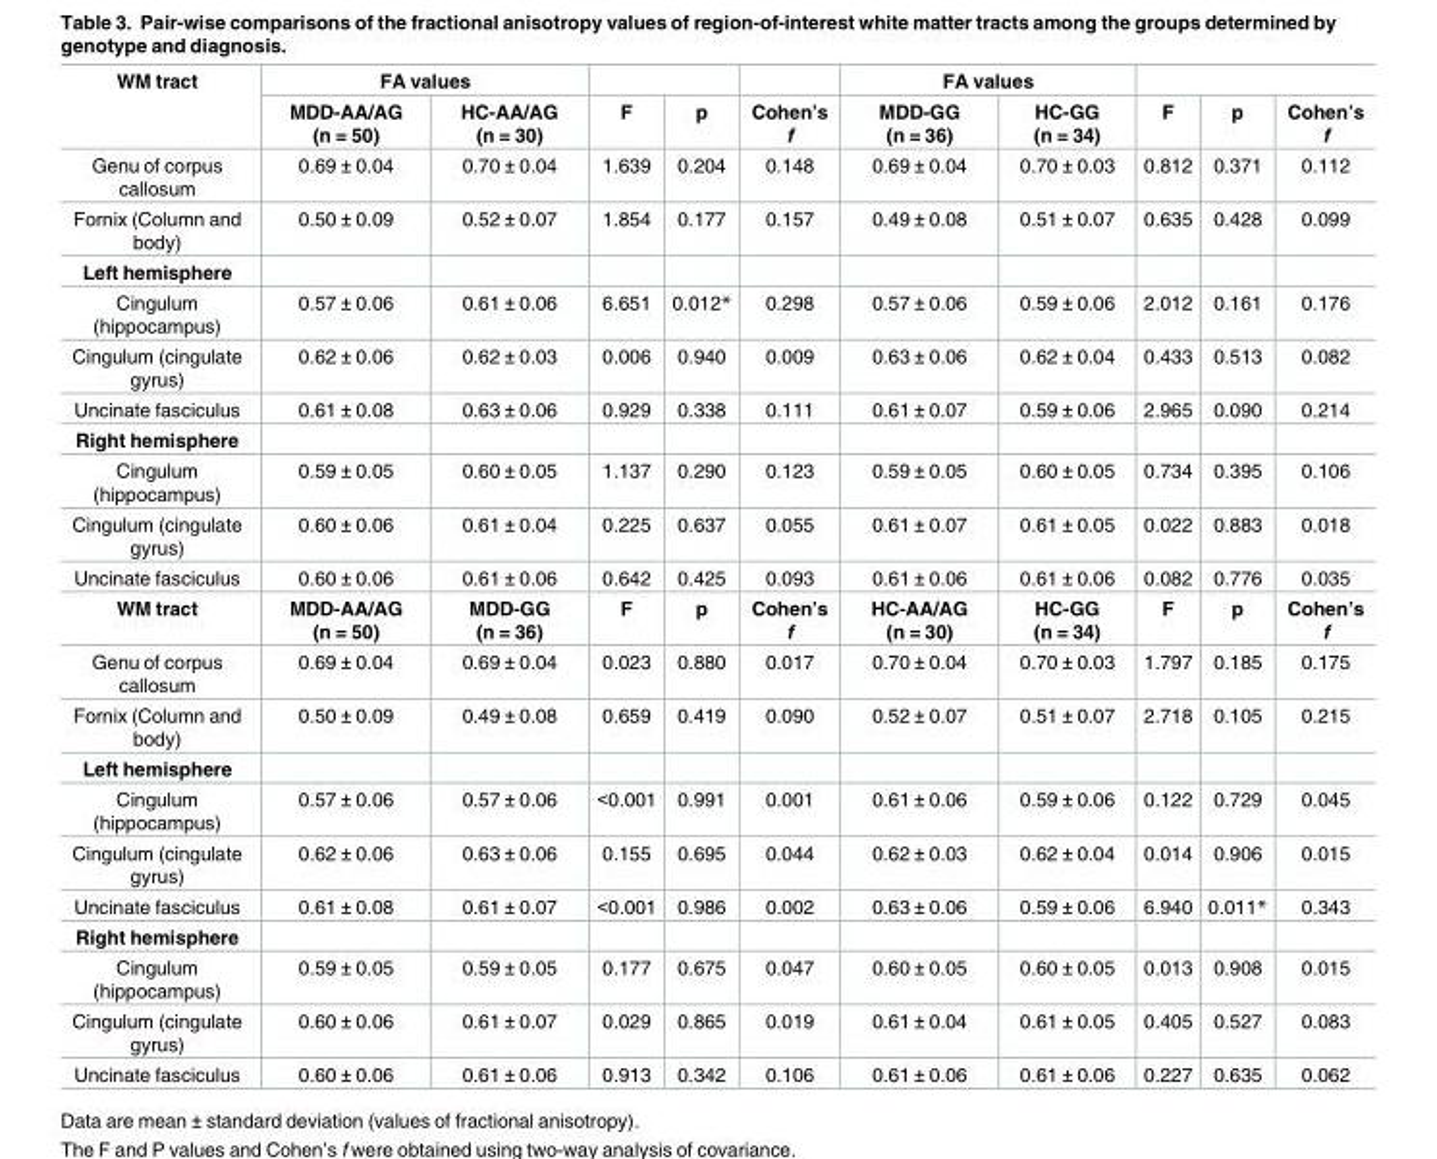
<table><tbody><tr><td rowspan="2">WM tract</td><td colspan="2">FA values</td><td colspan="2"></td><td></td><td colspan="2">FA values</td><td colspan="3"></td></tr><tr><td>MDD-AA/AG (n = 50)</td><td>HC-AA/AG (n = 30)</td><td>F</td><td>p</td><td>Cohen’s f</td><td>MDD-GG (n = 36)</td><td>HC-GG (n = 34)</td><td>F</td><td>p</td><td>Cohen’s f</td></tr><tr><td>Genu of corpus callosum</td><td>0.69 ± 0.04</td><td>0.70 ± 0.04</td><td>1.639</td><td>0.204</td><td>0.148</td><td>0.69 ± 0.04</td><td>0.70 ± 0.03</td><td>0.812</td><td>0.371</td><td>0.112</td></tr><tr><td>Fornix (Column and body)</td><td>0.50 ± 0.09</td><td>0.52 ± 0.07</td><td>1.854</td><td>0.177</td><td>0.157</td><td>0.49 ± 0.08</td><td>0.51 ± 0.07</td><td>0.635</td><td>0.428</td><td>0.099</td></tr><tr><td colspan="11">Left hemisphere</td></tr><tr><td>Cingulum (hippocampus)</td><td>0.57 ± 0.06</td><td>0.61 ± 0.06</td><td>6.651</td><td>0.012*</td><td>0.298</td><td>0.57 ± 0.06</td><td>0.59 ± 0.06</td><td>2.012</td><td>0.161</td><td>0.176</td></tr><tr><td>Cingulum (cingulate gyrus)</td><td>0.62 ± 0.06</td><td>0.62 ± 0.03</td><td>0.006</td><td>0.940</td><td>0.009</td><td>0.63 ± 0.06</td><td>0.62 ± 0.04</td><td>0.433</td><td>0.513</td><td>0.082</td></tr><tr><td>Uncinate fasciculus</td><td>0.61 ± 0.08</td><td>0.63 ± 0.06</td><td>0.929</td><td>0.338</td><td>0.111</td><td>0.61 ± 0.07</td><td>0.59 ± 0.06</td><td>2.965</td><td>0.090</td><td>0.214</td></tr><tr><td colspan="11">Right hemisphere</td></tr><tr><td>Cingulum (hippocampus)</td><td>0.59 ± 0.05</td><td>0.60 ± 0.05</td><td>1.137</td><td>0.290</td><td>0.123</td><td>0.59 ± 0.05</td><td>0.60 ± 0.05</td><td>0.734</td><td>0.395</td><td>0.106</td></tr><tr><td>Cingulum (cingulate gyrus)</td><td>0.60 ± 0.06</td><td>0.61 ± 0.04</td><td>0.225</td><td>0.637</td><td>0.055</td><td>0.61 ± 0.07</td><td>0.61 ± 0.05</td><td>0.022</td><td>0.883</td><td>0.018</td></tr><tr><td>Uncinate fasciculus</td><td>0.60 ± 0.06</td><td>0.61 ± 0.06</td><td>0.642</td><td>0.425</td><td>0.093</td><td>0.61 ± 0.06</td><td>0.61 ± 0.06</td><td>0.082</td><td>0.776</td><td>0.035</td></tr><tr><td>WM tract</td><td>MDD-AA/AG (n = 50)</td><td>MDD-GG (n = 36)</td><td>F</td><td>p</td><td>Cohen’s f</td><td>HC-AA/AG (n = 30)</td><td>HC-GG (n = 34)</td><td>F</td><td>p</td><td>Cohen’s f</td></tr><tr><td>Genu of corpus callosum</td><td>0.69 ± 0.04</td><td>0.69 ± 0.04</td><td>0.023</td><td>0.880</td><td>0.017</td><td>0.70 ± 0.04</td><td>0.70 ± 0.03</td><td>1.797</td><td>0.185</td><td>0.175</td></tr><tr><td>Fornix (Column and body)</td><td>0.50 ± 0.09</td><td>0.49 ± 0.08</td><td>0.659</td><td>0.419</td><td>0.090</td><td>0.52 ± 0.07</td><td>0.51 ± 0.07</td><td>2.718</td><td>0.105</td><td>0.215</td></tr><tr><td colspan="11">Left hemisphere</td></tr><tr><td>Cingulum (hippocampus)</td><td>0.57 ± 0.06</td><td>0.57 ± 0.06</td><td>&lt;0.001</td><td>0.991</td><td>0.001</td><td>0.61 ± 0.06</td><td>0.59 ± 0.06</td><td>0.122</td><td>0.729</td><td>0.045</td></tr><tr><td>Cingulum (cingulate gyrus)</td><td>0.62 ± 0.06</td><td>0.63 ± 0.06</td><td>0.155</td><td>0.695</td><td>0.044</td><td>0.62 ± 0.03</td><td>0.62 ± 0.04</td><td>0.014</td><td>0.906</td><td>0.015</td></tr><tr><td>Uncinate fasciculus</td><td>0.61 ± 0.08</td><td>0.61 ± 0.07</td><td>&lt;0.001</td><td>0.986</td><td>0.002</td><td>0.63 ± 0.06</td><td>0.59 ± 0.06</td><td>6.940</td><td>0.011*</td><td>0.343</td></tr><tr><td colspan="11">Right hemisphere</td></tr><tr><td>Cingulum (hippocampus)</td><td>0.59 ± 0.05</td><td>0.59 ± 0.05</td><td>0.177</td><td>0.675</td><td>0.047</td><td>0.60 ± 0.05</td><td>0.60 ± 0.05</td><td>0.013</td><td>0.908</td><td>0.015</td></tr><tr><td>Cingulum (cingulate gyrus)</td><td>0.60 ± 0.06</td><td>0.61 ± 0.07</td><td>0.029</td><td>0.865</td><td>0.019</td><td>0.61 ± 0.04</td><td>0.61 ± 0.05</td><td>0.405</td><td>0.527</td><td>0.083</td></tr><tr><td>Uncinate fasciculus</td><td>0.60 ± 0.06</td><td>0.61 ± 0.06</td><td>0.913</td><td>0.342</td><td>0.106</td><td>0.61 ± 0.06</td><td>0.61 ± 0.06</td><td>0.227</td><td>0.635</td><td>0.062</td></tr></tbody></table>